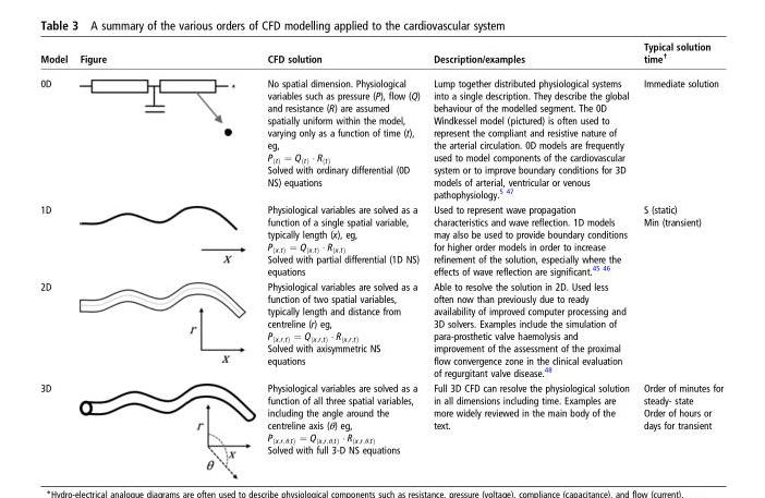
<table><thead><tr><td>Model</td><td>Figure</td><td>CFD solution</td><td>Description/examples</td><td>Typical solution time<sup>†</sup></td></tr></thead><tbody><tr><td>0D</td><td>*</td><td>No spatial dimension. Physiological variables such as pressure (P), flow (Q) and resistance (R) are assumed spatially uniform within the model, varying only as a function of time (t), eg, PðtÞ ¼ QðtÞ � RðtÞ Solved with ordinary differential (0D NS) equations</td><td>Lump together distributed physiological systems into a single description. They describe the global behaviour of the modelled segment. The 0D Windkessel model (pictured) is often used to represent the compliant and resistive nature of the arterial circulation. 0D models are frequently used to model components of the cardiovascular system or to improve boundary conditions for 3D models of arterial, ventricular or venous pathophysiology.<sup>5 47</sup></td><td>Immediate solution</td></tr><tr><td>1D</td><td></td><td>Physiological variables are solved as a function of a single spatial variable, typically length (x), eg, Pðx;tÞ ¼ Qðx;tÞ � Rðx;tÞ Solved with partial differential (1D NS) equations</td><td>Used to represent wave propagation characteristics and wave reflection. 1D models may also be used to provide boundary conditions for higher order models in order to increase refinement of the solution, especially where the effects of wave reflection are significant.<sup>45 46</sup></td><td>S (static) Min (transient)</td></tr><tr><td>2D</td><td></td><td>Physiological variables are solved as a function of two spatial variables, typically length and distance from centreline (r) eg, Pðx;r;tÞ ¼ Qðx;r;tÞ � Rðx;r;tÞ Solved with axisymmetric NS equations</td><td>Able to resolve the solution in 2D. Used less often now than previously due to ready availability of improved computer processing and 3D solvers. Examples include the simulation of para-prosthetic valve haemolysis and improvement of the assessment of the proximal flow convergence zone in the clinical evaluation of regurgitant valve disease.<sup>48</sup></td><td></td></tr><tr><td>3D</td><td></td><td>Physiological variables are solved as a function of all three spatial variables, including the angle around the centreline axis (θ) eg, Pðx;r;u;tÞ ¼ Qðx;r;u;tÞ � Rðx;r;u;tÞ Solved with full 3-D NS equations</td><td>Full 3D CFD can resolve the physiological solution in all dimensions including time. Examples are more widely reviewed in the main body of the text.</td><td>Order of minutes for steady- state Order of hours or days for transient</td></tr></tbody></table>